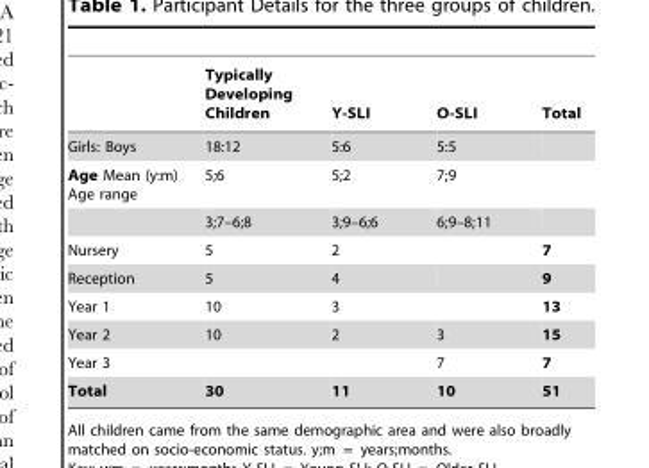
<table><thead><tr><td></td><td>Typically Developing Children</td><td>Y-SLI</td><td>O-SLI</td><td>Total</td></tr></thead><tbody><tr><td>Girls: Boys</td><td>18:12</td><td>5:6</td><td>5:5</td><td></td></tr><tr><td rowspan="2">Age Mean (y:m) Age range</td><td>5;6</td><td>5;2</td><td>7;9</td><td></td></tr><tr><td>3;7–6;8</td><td>3;9–6;6</td><td>6;9–8;11</td><td></td></tr><tr><td>Nursery</td><td>5</td><td>2</td><td></td><td>7</td></tr><tr><td>Reception</td><td>5</td><td>4</td><td></td><td>9</td></tr><tr><td>Year 1</td><td>10</td><td>3</td><td></td><td>13</td></tr><tr><td>Year 2</td><td>10</td><td>2</td><td>3</td><td>15</td></tr><tr><td>Year 3</td><td></td><td></td><td>7</td><td>7</td></tr><tr><td>Total</td><td>30</td><td>11</td><td>10</td><td>51</td></tr></tbody></table>